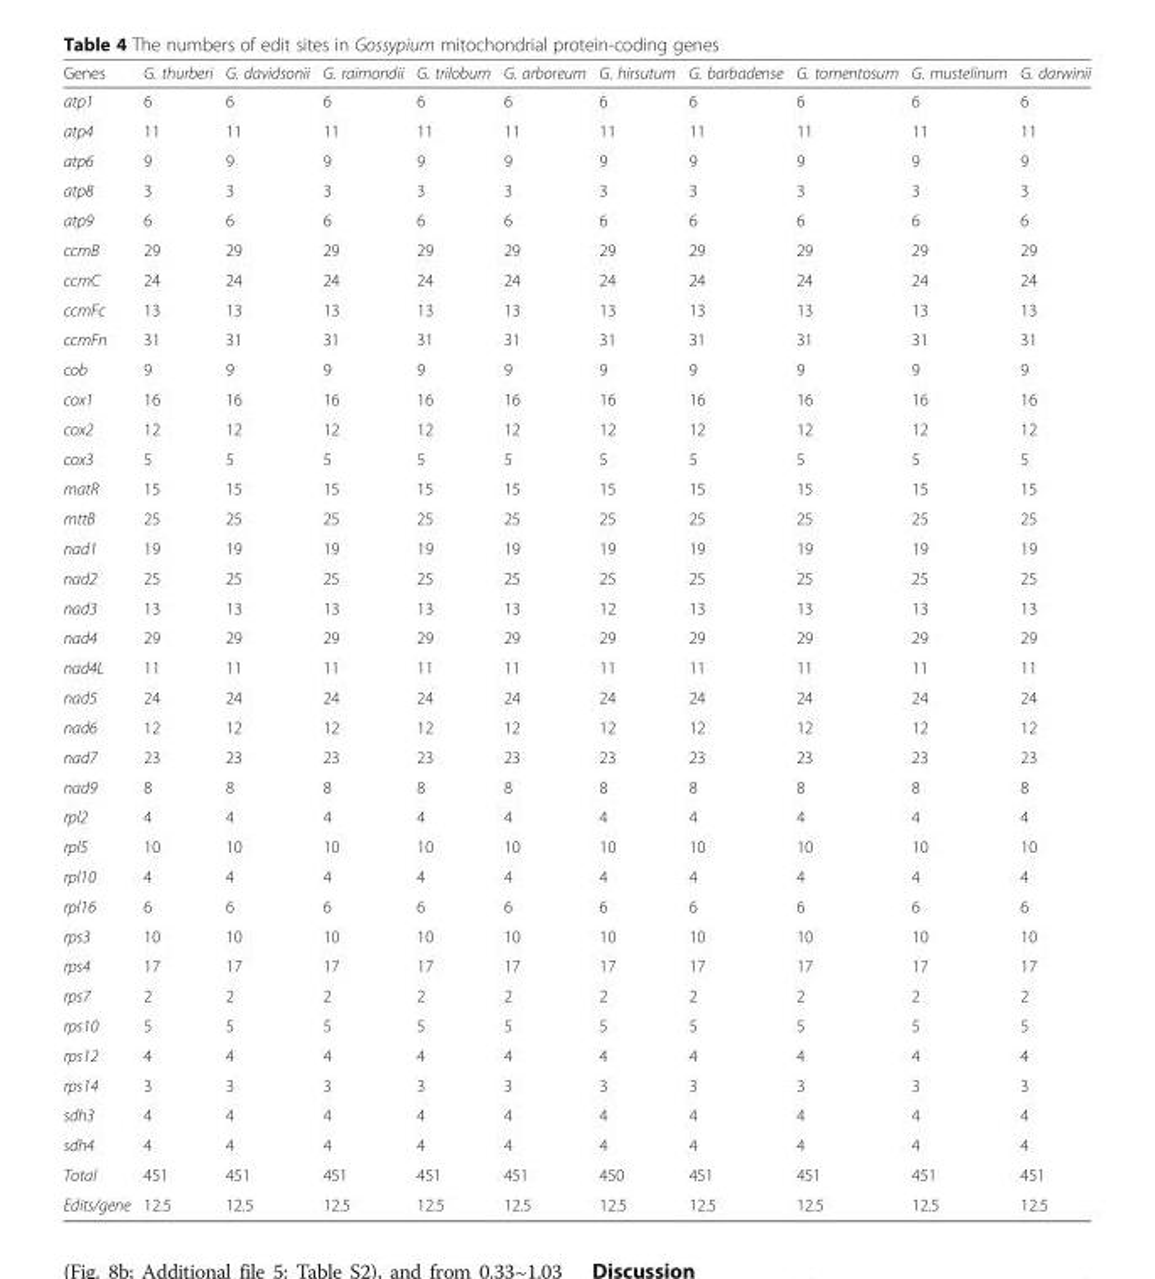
<table><thead><tr><td>Genes</td><td>G. thurberi</td><td>G. davidsonii</td><td>G. raimondii</td><td>G. trilobum</td><td>G. arboreum</td><td>G. hirsutum</td><td>G. barbadense</td><td>G. tomentosum</td><td>G. mustelinum</td><td>G. darwinii</td></tr></thead><tbody><tr><td>atp1</td><td>6</td><td>6</td><td>6</td><td>6</td><td>6</td><td>6</td><td>6</td><td>6</td><td>6</td><td>6</td></tr><tr><td>atp4</td><td>11</td><td>11</td><td>11</td><td>11</td><td>11</td><td>11</td><td>11</td><td>11</td><td>11</td><td>11</td></tr><tr><td>atp6</td><td>9</td><td>9</td><td>9</td><td>9</td><td>9</td><td>9</td><td>9</td><td>9</td><td>9</td><td>9</td></tr><tr><td>atp8</td><td>3</td><td>3</td><td>3</td><td>3</td><td>3</td><td>3</td><td>3</td><td>3</td><td>3</td><td>3</td></tr><tr><td>atp9</td><td>6</td><td>6</td><td>6</td><td>6</td><td>6</td><td>6</td><td>6</td><td>6</td><td>6</td><td>6</td></tr><tr><td>ccmB</td><td>29</td><td>29</td><td>29</td><td>29</td><td>29</td><td>29</td><td>29</td><td>29</td><td>29</td><td>29</td></tr><tr><td>ccmC</td><td>24</td><td>24</td><td>24</td><td>24</td><td>24</td><td>24</td><td>24</td><td>24</td><td>24</td><td>24</td></tr><tr><td>ccmFc</td><td>13</td><td>13</td><td>13</td><td>13</td><td>13</td><td>13</td><td>13</td><td>13</td><td>13</td><td>13</td></tr><tr><td>ccmFn</td><td>31</td><td>31</td><td>31</td><td>31</td><td>31</td><td>31</td><td>31</td><td>31</td><td>31</td><td>31</td></tr><tr><td>cob</td><td>9</td><td>9</td><td>9</td><td>9</td><td>9</td><td>9</td><td>9</td><td>9</td><td>9</td><td>9</td></tr><tr><td>cox1</td><td>16</td><td>16</td><td>16</td><td>16</td><td>16</td><td>16</td><td>16</td><td>16</td><td>16</td><td>16</td></tr><tr><td>cox2</td><td>12</td><td>12</td><td>12</td><td>12</td><td>12</td><td>12</td><td>12</td><td>12</td><td>12</td><td>12</td></tr><tr><td>cox3</td><td>5</td><td>5</td><td>5</td><td>5</td><td>5</td><td>5</td><td>5</td><td>5</td><td>5</td><td>5</td></tr><tr><td>matR</td><td>15</td><td>15</td><td>15</td><td>15</td><td>15</td><td>15</td><td>15</td><td>15</td><td>15</td><td>15</td></tr><tr><td>mttB</td><td>25</td><td>25</td><td>25</td><td>25</td><td>25</td><td>25</td><td>25</td><td>25</td><td>25</td><td>25</td></tr><tr><td>nad1</td><td>19</td><td>19</td><td>19</td><td>19</td><td>19</td><td>19</td><td>19</td><td>19</td><td>19</td><td>19</td></tr><tr><td>nad2</td><td>25</td><td>25</td><td>25</td><td>25</td><td>25</td><td>25</td><td>25</td><td>25</td><td>25</td><td>25</td></tr><tr><td>nad3</td><td>13</td><td>13</td><td>13</td><td>13</td><td>13</td><td>12</td><td>13</td><td>13</td><td>13</td><td>13</td></tr><tr><td>nad4</td><td>29</td><td>29</td><td>29</td><td>29</td><td>29</td><td>29</td><td>29</td><td>29</td><td>29</td><td>29</td></tr><tr><td>nad4L</td><td>11</td><td>11</td><td>11</td><td>11</td><td>11</td><td>11</td><td>11</td><td>11</td><td>11</td><td>11</td></tr><tr><td>nad5</td><td>24</td><td>24</td><td>24</td><td>24</td><td>24</td><td>24</td><td>24</td><td>24</td><td>24</td><td>24</td></tr><tr><td>nad6</td><td>12</td><td>12</td><td>12</td><td>12</td><td>12</td><td>12</td><td>12</td><td>12</td><td>12</td><td>12</td></tr><tr><td>nad7</td><td>23</td><td>23</td><td>23</td><td>23</td><td>23</td><td>23</td><td>23</td><td>23</td><td>23</td><td>23</td></tr><tr><td>nad9</td><td>8</td><td>8</td><td>8</td><td>8</td><td>8</td><td>8</td><td>8</td><td>8</td><td>8</td><td>8</td></tr><tr><td>rpl2</td><td>4</td><td>4</td><td>4</td><td>4</td><td>4</td><td>4</td><td>4</td><td>4</td><td>4</td><td>4</td></tr><tr><td>rpl5</td><td>10</td><td>10</td><td>10</td><td>10</td><td>10</td><td>10</td><td>10</td><td>10</td><td>10</td><td>10</td></tr><tr><td>rpl10</td><td>4</td><td>4</td><td>4</td><td>4</td><td>4</td><td>4</td><td>4</td><td>4</td><td>4</td><td>4</td></tr><tr><td>rpl16</td><td>6</td><td>6</td><td>6</td><td>6</td><td>6</td><td>6</td><td>6</td><td>6</td><td>6</td><td>6</td></tr><tr><td>rps3</td><td>10</td><td>10</td><td>10</td><td>10</td><td>10</td><td>10</td><td>10</td><td>10</td><td>10</td><td>10</td></tr><tr><td>rps4</td><td>17</td><td>17</td><td>17</td><td>17</td><td>17</td><td>17</td><td>17</td><td>17</td><td>17</td><td>17</td></tr><tr><td>rps7</td><td>2</td><td>2</td><td>2</td><td>2</td><td>2</td><td>2</td><td>2</td><td>2</td><td>2</td><td>2</td></tr><tr><td>rps10</td><td>5</td><td>5</td><td>5</td><td>5</td><td>5</td><td>5</td><td>5</td><td>5</td><td>5</td><td>5</td></tr><tr><td>rps12</td><td>4</td><td>4</td><td>4</td><td>4</td><td>4</td><td>4</td><td>4</td><td>4</td><td>4</td><td>4</td></tr><tr><td>rps14</td><td>3</td><td>3</td><td>3</td><td>3</td><td>3</td><td>3</td><td>3</td><td>3</td><td>3</td><td>3</td></tr><tr><td>sdh3</td><td>4</td><td>4</td><td>4</td><td>4</td><td>4</td><td>4</td><td>4</td><td>4</td><td>4</td><td>4</td></tr><tr><td>sdh4</td><td>4</td><td>4</td><td>4</td><td>4</td><td>4</td><td>4</td><td>4</td><td>4</td><td>4</td><td>4</td></tr><tr><td>Total</td><td>451</td><td>451</td><td>451</td><td>451</td><td>451</td><td>450</td><td>451</td><td>451</td><td>451</td><td>451</td></tr><tr><td>Edits/gene</td><td>12.5</td><td>12.5</td><td>12.5</td><td>12.5</td><td>12.5</td><td>12.5</td><td>12.5</td><td>12.5</td><td>12.5</td><td>12.5</td></tr></tbody></table>